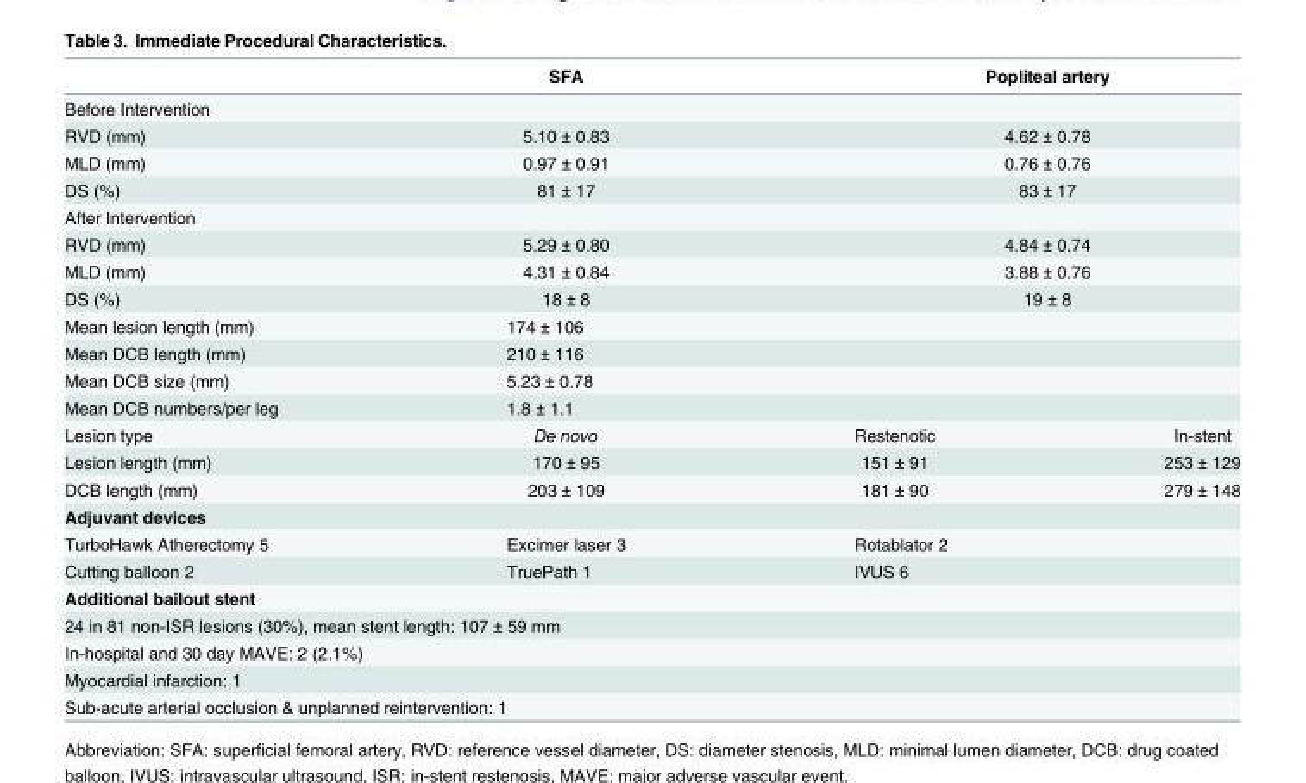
<table><thead><tr><td></td><td>SFA</td><td colspan="2">Popliteal artery</td></tr></thead><tbody><tr><td colspan="4">Before Intervention</td></tr><tr><td>RVD (mm)</td><td>5.10 ± 0.83</td><td colspan="2">4.62 ± 0.78</td></tr><tr><td>MLD (mm)</td><td>0.97 ± 0.91</td><td colspan="2">0.76 ± 0.76</td></tr><tr><td>DS (%)</td><td>81 ± 17</td><td colspan="2">83 ± 17</td></tr><tr><td colspan="4">After Intervention</td></tr><tr><td>RVD (mm)</td><td>5.29 ± 0.80</td><td colspan="2">4.84 ± 0.74</td></tr><tr><td>MLD (mm)</td><td>4.31 ± 0.84</td><td colspan="2">3.88 ± 0.76</td></tr><tr><td>DS (%)</td><td>18 ± 8</td><td colspan="2">19 ± 8</td></tr><tr><td>Mean lesion length (mm)</td><td colspan="3">174 ± 106</td></tr><tr><td>Mean DCB length (mm)</td><td colspan="3">210 ± 116</td></tr><tr><td>Mean DCB size (mm)</td><td colspan="3">5.23 ± 0.78</td></tr><tr><td>Mean DCB numbers/per leg</td><td colspan="3">1.8 ± 1.1</td></tr><tr><td>Lesion type</td><td>De novo</td><td>Restenotic</td><td>In-stent</td></tr><tr><td>Lesion length (mm)</td><td>170 ± 95</td><td>151 ± 91</td><td>253 ± 129</td></tr><tr><td>DCB length (mm)</td><td>203 ± 109</td><td>181 ± 90</td><td>279 ± 148</td></tr><tr><td colspan="4">Adjuvant devices</td></tr><tr><td>TurboHawk Atherectomy 5</td><td>Excimer laser 3</td><td colspan="2">Rotablator 2</td></tr><tr><td>Cutting balloon 2</td><td>TruePath 1</td><td colspan="2">IVUS 6</td></tr><tr><td colspan="4">Additional bailout stent</td></tr><tr><td colspan="4">24 in 81 non-ISR lesions (30%), mean stent length: 107 ± 59 mm</td></tr><tr><td colspan="4">In-hospital and 30 day MAVE: 2 (2.1%)</td></tr><tr><td colspan="4">Myocardial infarction: 1</td></tr><tr><td colspan="4">Sub-acute arterial occlusion &amp; unplanned reintervention: 1</td></tr></tbody></table>